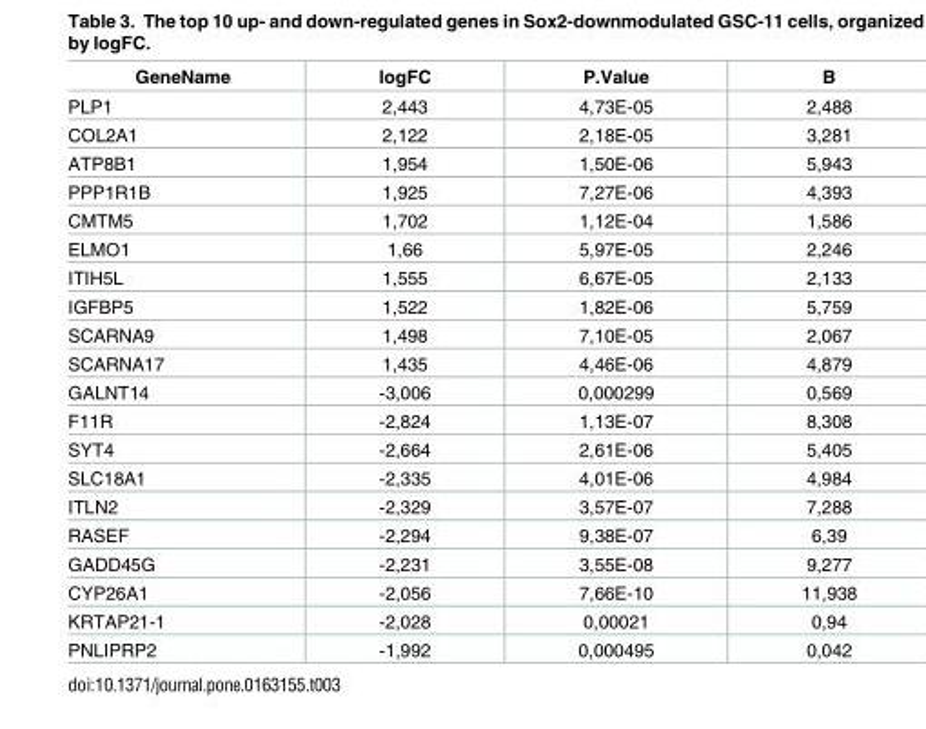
<table><thead><tr><td>GeneName</td><td>logFC</td><td>P.Value</td><td>B</td></tr></thead><tbody><tr><td>PLP1</td><td>2,443</td><td>4,73E-05</td><td>2,488</td></tr><tr><td>COL2A1</td><td>2,122</td><td>2,18E-05</td><td>3,281</td></tr><tr><td>ATP8B1</td><td>1,954</td><td>1,50E-06</td><td>5,943</td></tr><tr><td>PPP1R1B</td><td>1,925</td><td>7,27E-06</td><td>4,393</td></tr><tr><td>CMTM5</td><td>1,702</td><td>1,12E-04</td><td>1,586</td></tr><tr><td>ELMO1</td><td>1,66</td><td>5,97E-05</td><td>2,246</td></tr><tr><td>ITIH5L</td><td>1,555</td><td>6,67E-05</td><td>2,133</td></tr><tr><td>IGFBP5</td><td>1,522</td><td>1,82E-06</td><td>5,759</td></tr><tr><td>SCARNA9</td><td>1,498</td><td>7,10E-05</td><td>2,067</td></tr><tr><td>SCARNA17</td><td>1,435</td><td>4,46E-06</td><td>4,879</td></tr><tr><td>GALNT14</td><td>-3,006</td><td>0,000299</td><td>0,569</td></tr><tr><td>F11R</td><td>-2,824</td><td>1,13E-07</td><td>8,308</td></tr><tr><td>SYT4</td><td>-2,664</td><td>2,61E-06</td><td>5,405</td></tr><tr><td>SLC18A1</td><td>-2,335</td><td>4,01E-06</td><td>4,984</td></tr><tr><td>ITLN2</td><td>-2,329</td><td>3,57E-07</td><td>7,288</td></tr><tr><td>RASEF</td><td>-2,294</td><td>9,38E-07</td><td>6,39</td></tr><tr><td>GADD45G</td><td>-2,231</td><td>3,55E-08</td><td>9,277</td></tr><tr><td>CYP26A1</td><td>-2,056</td><td>7,66E-10</td><td>11,938</td></tr><tr><td>KRTAP21-1</td><td>-2,028</td><td>0,00021</td><td>0,94</td></tr><tr><td>PNLIPRP2</td><td>-1,992</td><td>0,000495</td><td>0,042</td></tr></tbody></table>